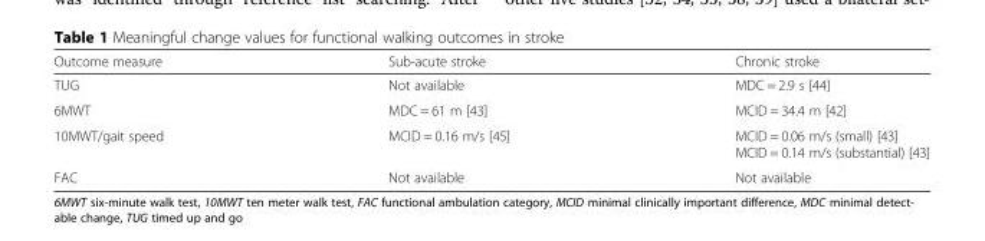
<table><thead><tr><td>Outcome measure</td><td>Sub-acute stroke</td><td>Chronic stroke</td></tr></thead><tbody><tr><td>TUG</td><td>Not available</td><td>MDC = 2.9 s [44]</td></tr><tr><td>6MWT</td><td>MDC = 61 m [43]</td><td>MCID = 34.4 m [42]</td></tr><tr><td>10MWT/gait speed</td><td>MCID = 0.16 m/s [45]</td><td>MCID = 0.06 m/s (small) [43] MCID = 0.14 m/s (substantial) [43]</td></tr><tr><td>FAC</td><td>Not available</td><td>Not available</td></tr></tbody></table>